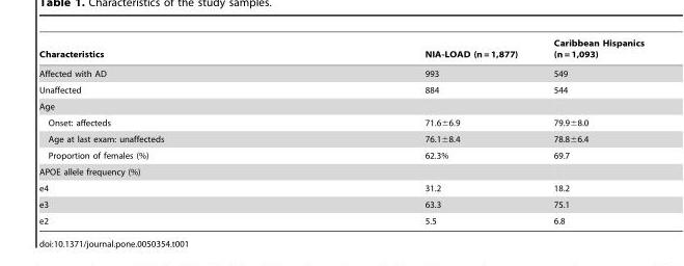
<table><thead><tr><td>Characteristics</td><td>NIA-LOAD (n = 1,877)</td><td>Caribbean Hispanics (n = 1,093)</td></tr></thead><tbody><tr><td>Affected with AD</td><td>993</td><td>549</td></tr><tr><td>Unaffected</td><td>884</td><td>544</td></tr><tr><td colspan="3">Age</td></tr><tr><td>Onset: affecteds</td><td>71.6±6.9</td><td>79.9±8.0</td></tr><tr><td>Age at last exam: unaffecteds</td><td>76.1±8.4</td><td>78.8±6.4</td></tr><tr><td>Proportion of females (%)</td><td>62.3%</td><td>69.7</td></tr><tr><td colspan="3">APOE allele frequency (%)</td></tr><tr><td>e4</td><td>31.2</td><td>18.2</td></tr><tr><td>e3</td><td>63.3</td><td>75.1</td></tr><tr><td>e2</td><td>5.5</td><td>6.8</td></tr></tbody></table>